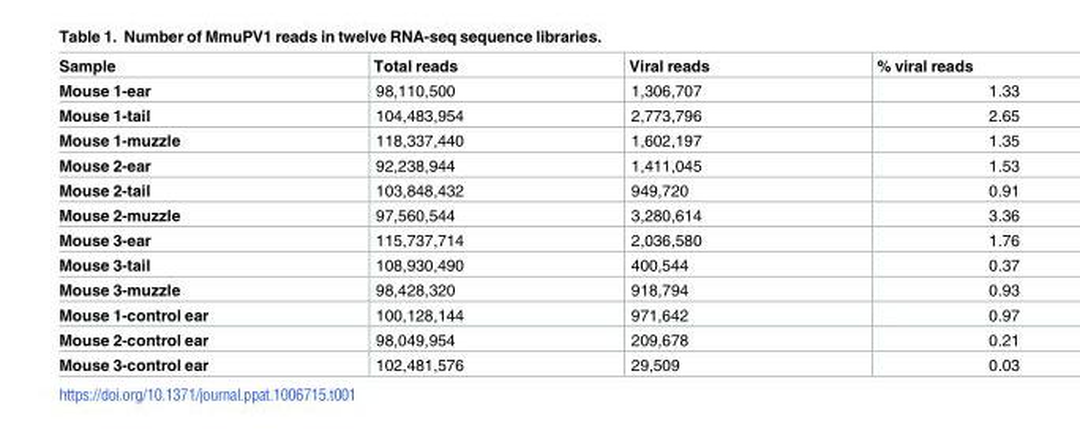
<table><thead><tr><td>Sample</td><td>Total reads</td><td>Viral reads</td><td>% viral reads</td></tr></thead><tbody><tr><td>Mouse 1-ear</td><td>98,110,500</td><td>1,306,707</td><td>1.33</td></tr><tr><td>Mouse 1-tail</td><td>104,483,954</td><td>2,773,796</td><td>2.65</td></tr><tr><td>Mouse 1-muzzle</td><td>118,337,440</td><td>1,602,197</td><td>1.35</td></tr><tr><td>Mouse 2-ear</td><td>92,238,944</td><td>1,411,045</td><td>1.53</td></tr><tr><td>Mouse 2-tail</td><td>103,848,432</td><td>949,720</td><td>0.91</td></tr><tr><td>Mouse 2-muzzle</td><td>97,560,544</td><td>3,280,614</td><td>3.36</td></tr><tr><td>Mouse 3-ear</td><td>115,737,714</td><td>2,036,580</td><td>1.76</td></tr><tr><td>Mouse 3-tail</td><td>108,930,490</td><td>400,544</td><td>0.37</td></tr><tr><td>Mouse 3-muzzle</td><td>98,428,320</td><td>918,794</td><td>0.93</td></tr><tr><td>Mouse 1-control ear</td><td>100,128,144</td><td>971,642</td><td>0.97</td></tr><tr><td>Mouse 2-control ear</td><td>98,049,954</td><td>209,678</td><td>0.21</td></tr><tr><td>Mouse 3-control ear</td><td>102,481,576</td><td>29,509</td><td>0.03</td></tr></tbody></table>